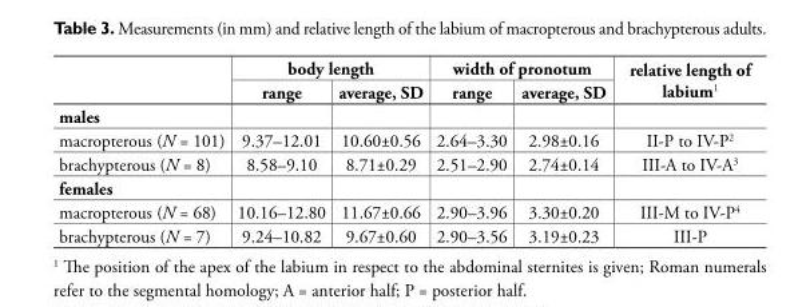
<table><thead><tr><td rowspan="2"></td><td colspan="2">body length</td><td colspan="2">width of pronotum</td><td rowspan="2">relative length of labium<sup>1</sup></td></tr><tr><td>range</td><td>average, SD</td><td>range</td><td>average, SD</td></tr></thead><tbody><tr><td colspan="6">males</td></tr><tr><td>macropterous (N = 101)</td><td>9.37–12.01</td><td>10.60±0.56</td><td>2.64–3.30</td><td>2.98±0.16</td><td>II-P to IV-P<sup>2</sup></td></tr><tr><td>brachypterous (N = 8)</td><td>8.58–9.10</td><td>8.71±0.29</td><td>2.51–2.90</td><td>2.74±0.14</td><td>III-A to IV-A<sup>3</sup></td></tr><tr><td colspan="6">females</td></tr><tr><td>macropterous (N = 68)</td><td>10.16–12.80</td><td>11.67±0.66</td><td>2.90–3.96</td><td>3.30±0.20</td><td>III-M to IV-P<sup>4</sup></td></tr><tr><td>brachypterous (N = 7)</td><td>9.24–10.82</td><td>9.67±0.60</td><td>2.90–3.56</td><td>3.19±0.23</td><td>III-P</td></tr></tbody></table>